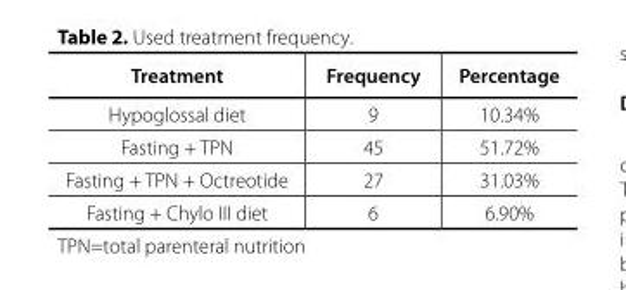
<table><thead><tr><td>Treatment</td><td>Frequency</td><td>Percentage</td></tr></thead><tbody><tr><td>Hypoglossal diet</td><td>9</td><td>10.34%</td></tr><tr><td>Fasting + TPN</td><td>45</td><td>51.72%</td></tr><tr><td>Fasting + TPN + Octreotide</td><td>27</td><td>31.03%</td></tr><tr><td>Fasting + Chylo III diet</td><td>6</td><td>6.90%</td></tr></tbody></table>